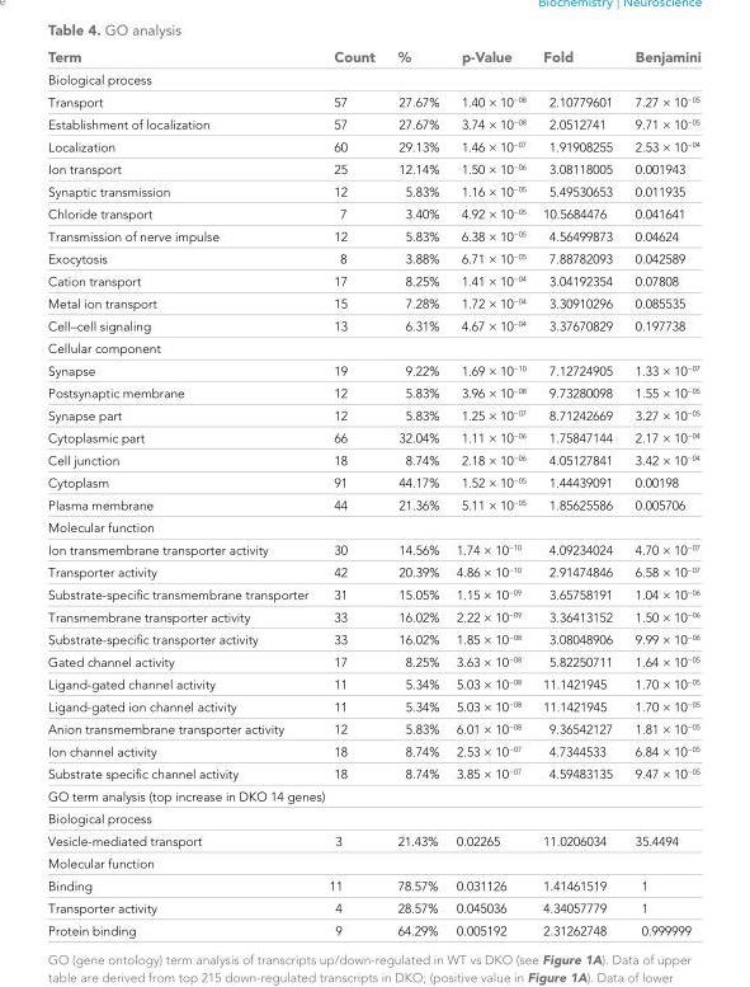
<table><thead><tr><td>Term</td><td>Count</td><td>%</td><td>p-Value</td><td>Fold</td><td>Benjamini</td></tr></thead><tbody><tr><td colspan="6">Biological process</td></tr><tr><td>Transport</td><td>57</td><td>27.67%</td><td>1.40 × 10<sup>−08</sup></td><td>2.10779601</td><td>7.27 × 10<sup>−05</sup></td></tr><tr><td>Establishment of localization</td><td>57</td><td>27.67%</td><td>3.74 × 10<sup>−08</sup></td><td>2.0512741</td><td>9.71 × 10<sup>−05</sup></td></tr><tr><td>Localization</td><td>60</td><td>29.13%</td><td>1.46 × 10<sup>−07</sup></td><td>1.91908255</td><td>2.53 × 10<sup>−04</sup></td></tr><tr><td>Ion transport</td><td>25</td><td>12.14%</td><td>1.50 × 10<sup>−06</sup></td><td>3.08118005</td><td>0.001943</td></tr><tr><td>Synaptic transmission</td><td>12</td><td>5.83%</td><td>1.16 × 10<sup>−05</sup></td><td>5.49530653</td><td>0.011935</td></tr><tr><td>Chloride transport</td><td>7</td><td>3.40%</td><td>4.92 × 10<sup>−05</sup></td><td>10.5684476</td><td>0.041641</td></tr><tr><td>Transmission of nerve impulse</td><td>12</td><td>5.83%</td><td>6.38 × 10<sup>−05</sup></td><td>4.56499873</td><td>0.04624</td></tr><tr><td>Exocytosis</td><td>8</td><td>3.88%</td><td>6.71 × 10<sup>−05</sup></td><td>7.88782093</td><td>0.042589</td></tr><tr><td>Cation transport</td><td>17</td><td>8.25%</td><td>1.41 × 10<sup>−04</sup></td><td>3.04192354</td><td>0.07808</td></tr><tr><td>Metal ion transport</td><td>15</td><td>7.28%</td><td>1.72 × 10<sup>−04</sup></td><td>3.30910296</td><td>0.085535</td></tr><tr><td>Cell–cell signaling</td><td>13</td><td>6.31%</td><td>4.67 × 10<sup>−04</sup></td><td>3.37670829</td><td>0.197738</td></tr><tr><td colspan="6">Cellular component</td></tr><tr><td>Synapse</td><td>19</td><td>9.22%</td><td>1.69 × 10<sup>−10</sup></td><td>7.12724905</td><td>1.33 × 10<sup>−07</sup></td></tr><tr><td>Postsynaptic membrane</td><td>12</td><td>5.83%</td><td>3.96 × 10<sup>−08</sup></td><td>9.73280098</td><td>1.55 × 10<sup>−05</sup></td></tr><tr><td>Synapse part</td><td>12</td><td>5.83%</td><td>1.25 × 10<sup>−07</sup></td><td>8.71242669</td><td>3.27 × 10<sup>−05</sup></td></tr><tr><td>Cytoplasmic part</td><td>66</td><td>32.04%</td><td>1.11 × 10<sup>−06</sup></td><td>1.75847144</td><td>2.17 × 10<sup>−04</sup></td></tr><tr><td>Cell junction</td><td>18</td><td>8.74%</td><td>2.18 × 10<sup>−06</sup></td><td>4.05127841</td><td>3.42 × 10<sup>−04</sup></td></tr><tr><td>Cytoplasm</td><td>91</td><td>44.17%</td><td>1.52 × 10<sup>−05</sup></td><td>1.44439091</td><td>0.00198</td></tr><tr><td>Plasma membrane</td><td>44</td><td>21.36%</td><td>5.11 × 10<sup>−05</sup></td><td>1.85625586</td><td>0.005706</td></tr><tr><td colspan="6">Molecular function</td></tr><tr><td>Ion transmembrane transporter activity</td><td>30</td><td>14.56%</td><td>1.74 × 10<sup>−10</sup></td><td>4.09234024</td><td>4.70 × 10<sup>−07</sup></td></tr><tr><td>Transporter activity</td><td>42</td><td>20.39%</td><td>4.86 × 10<sup>−10</sup></td><td>2.91474846</td><td>6.58 × 10<sup>−07</sup></td></tr><tr><td>Substrate-specific transmembrane transporter</td><td>31</td><td>15.05%</td><td>1.15 × 10<sup>−09</sup></td><td>3.65758191</td><td>1.04 × 10<sup>−06</sup></td></tr><tr><td>Transmembrane transporter activity</td><td>33</td><td>16.02%</td><td>2.22 × 10<sup>−09</sup></td><td>3.36413152</td><td>1.50 × 10<sup>−06</sup></td></tr><tr><td>Substrate-specific transporter activity</td><td>33</td><td>16.02%</td><td>1.85 × 10<sup>−08</sup></td><td>3.08048906</td><td>9.99 × 10<sup>−06</sup></td></tr><tr><td>Gated channel activity</td><td>17</td><td>8.25%</td><td>3.63 × 10<sup>−08</sup></td><td>5.82250711</td><td>1.64 × 10<sup>−05</sup></td></tr><tr><td>Ligand-gated channel activity</td><td>11</td><td>5.34%</td><td>5.03 × 10<sup>−08</sup></td><td>11.1421945</td><td>1.70 × 10<sup>−05</sup></td></tr><tr><td>Ligand-gated ion channel activity</td><td>11</td><td>5.34%</td><td>5.03 × 10<sup>−08</sup></td><td>11.1421945</td><td>1.70 × 10<sup>−05</sup></td></tr><tr><td>Anion transmembrane transporter activity</td><td>12</td><td>5.83%</td><td>6.01 × 10<sup>−08</sup></td><td>9.36542127</td><td>1.81 × 10<sup>−05</sup></td></tr><tr><td>Ion channel activity</td><td>18</td><td>8.74%</td><td>2.53 × 10<sup>−07</sup></td><td>4.7344533</td><td>6.84 × 10<sup>−05</sup></td></tr><tr><td>Substrate specific channel activity</td><td>18</td><td>8.74%</td><td>3.85 × 10<sup>−07</sup></td><td>4.59483135</td><td>9.47 × 10<sup>−05</sup></td></tr><tr><td colspan="6">GO term analysis (top increase in DKO 14 genes)</td></tr><tr><td colspan="6">Biological process</td></tr><tr><td>Vesicle-mediated transport</td><td>3</td><td>21.43%</td><td>0.02265</td><td>11.0206034</td><td>35.4494</td></tr><tr><td colspan="6">Molecular function</td></tr><tr><td>Binding</td><td>11</td><td>78.57%</td><td>0.031126</td><td>1.41461519</td><td>1</td></tr><tr><td>Transporter activity</td><td>4</td><td>28.57%</td><td>0.045036</td><td>4.34057779</td><td>1</td></tr><tr><td>Protein binding</td><td>9</td><td>64.29%</td><td>0.005192</td><td>2.31262748</td><td>0.999999</td></tr></tbody></table>